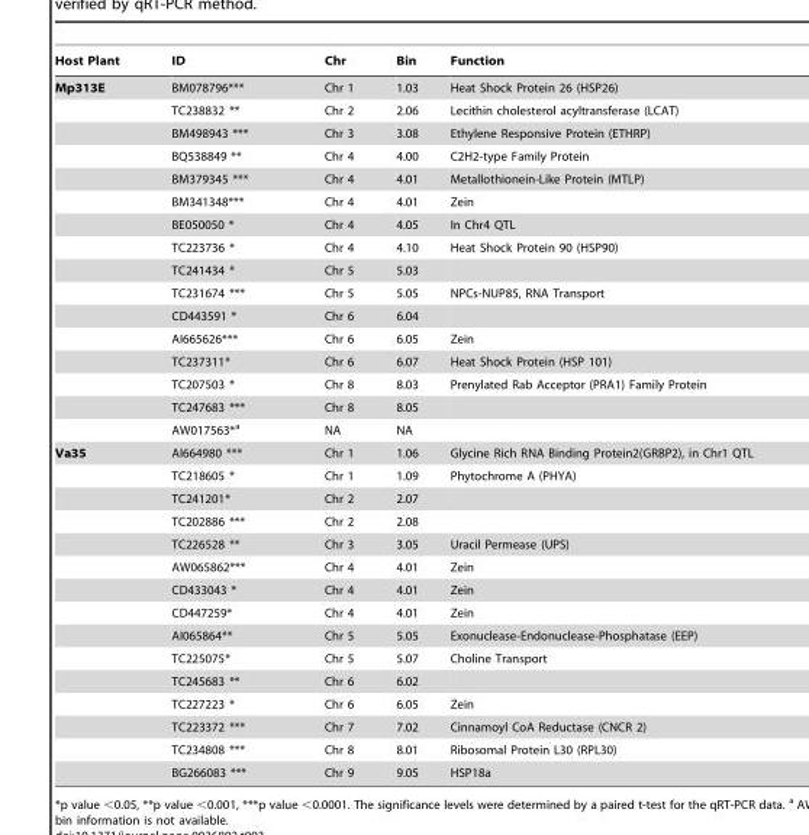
<table><thead><tr><td>Host Plant</td><td>ID</td><td>Chr</td><td>Bin</td><td>Function</td></tr></thead><tbody><tr><td rowspan="16">Mp313E</td><td>BM078796***</td><td>Chr 1</td><td>1.03</td><td>Heat Shock Protein 26 (HSP26)</td></tr><tr><td>TC238832 **</td><td>Chr 2</td><td>2.06</td><td>Lecithin cholesterol acyltransferase (LCAT)</td></tr><tr><td>BM498943 ***</td><td>Chr 3</td><td>3.08</td><td>Ethylene Responsive Protein (ETHRP)</td></tr><tr><td>BQ538849 **</td><td>Chr 4</td><td>4.00</td><td>C2H2-type Family Protein</td></tr><tr><td>BM379345 ***</td><td>Chr 4</td><td>4.01</td><td>Metallothionein-Like Protein (MTLP)</td></tr><tr><td>BM341348***</td><td>Chr 4</td><td>4.01</td><td>Zein</td></tr><tr><td>BE050050 *</td><td>Chr 4</td><td>4.05</td><td>In Chr4 QTL</td></tr><tr><td>TC223736 *</td><td>Chr 4</td><td>4.10</td><td>Heat Shock Protein 90 (HSP90)</td></tr><tr><td>TC241434 *</td><td>Chr 5</td><td>5.03</td><td></td></tr><tr><td>TC231674 ***</td><td>Chr 5</td><td>5.05</td><td>NPCs-NUP85, RNA Transport</td></tr><tr><td>CD443591 *</td><td>Chr 6</td><td>6.04</td><td></td></tr><tr><td>AI665626***</td><td>Chr 6</td><td>6.05</td><td>Zein</td></tr><tr><td>TC237311*</td><td>Chr 6</td><td>6.07</td><td>Heat Shock Protein (HSP 101)</td></tr><tr><td>TC207503 *</td><td>Chr 8</td><td>8.03</td><td>Prenylated Rab Acceptor (PRA1) Family Protein</td></tr><tr><td>TC247683 ***</td><td>Chr 8</td><td>8.05</td><td></td></tr><tr><td>AW017563*<sup>a</sup></td><td>NA</td><td>NA</td><td></td></tr><tr><td rowspan="15">Va35</td><td>AI664980 ***</td><td>Chr 1</td><td>1.06</td><td>Glycine Rich RNA Binding Protein2(GRBP2), in Chr1 QTL</td></tr><tr><td>TC218605 *</td><td>Chr 1</td><td>1.09</td><td>Phytochrome A (PHYA)</td></tr><tr><td>TC241201*</td><td>Chr 2</td><td>2.07</td><td></td></tr><tr><td>TC202886 ***</td><td>Chr 2</td><td>2.08</td><td></td></tr><tr><td>TC226528 **</td><td>Chr 3</td><td>3.05</td><td>Uracil Permease (UPS)</td></tr><tr><td>AW065862***</td><td>Chr 4</td><td>4.01</td><td>Zein</td></tr><tr><td>CD433043 *</td><td>Chr 4</td><td>4.01</td><td>Zein</td></tr><tr><td>CD447259*</td><td>Chr 4</td><td>4.01</td><td>Zein</td></tr><tr><td>AI065864**</td><td>Chr 5</td><td>5.05</td><td>Exonuclease-Endonuclease-Phosphatase (EEP)</td></tr><tr><td>TC225075*</td><td>Chr 5</td><td>5.07</td><td>Choline Transport</td></tr><tr><td>TC245683 **</td><td>Chr 6</td><td>6.02</td><td></td></tr><tr><td>TC227223 *</td><td>Chr 6</td><td>6.05</td><td>Zein</td></tr><tr><td>TC223372 ***</td><td>Chr 7</td><td>7.02</td><td>Cinnamoyl CoA Reductase (CNCR 2)</td></tr><tr><td>TC234808 ***</td><td>Chr 8</td><td>8.01</td><td>Ribosomal Protein L30 (RPL30)</td></tr><tr><td>BG266083 ***</td><td>Chr 9</td><td>9.05</td><td>HSP18a</td></tr></tbody></table>